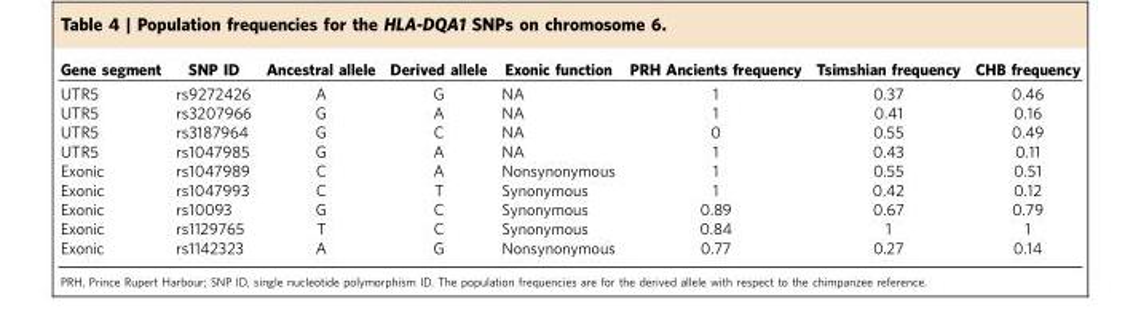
<table><thead><tr><td>Gene segment</td><td>SNP ID</td><td>Ancestral allele</td><td>Derived allele</td><td>Exonic function</td><td>PRH Ancients frequency</td><td>Tsimshian frequency</td><td>CHB frequency</td></tr></thead><tbody><tr><td>UTR5</td><td>rs9272426</td><td>A</td><td>G</td><td>NA</td><td>1</td><td>0.37</td><td>0.46</td></tr><tr><td>UTR5</td><td>rs3207966</td><td>G</td><td>A</td><td>NA</td><td>1</td><td>0.41</td><td>0.16</td></tr><tr><td>UTR5</td><td>rs3187964</td><td>G</td><td>C</td><td>NA</td><td>0</td><td>0.55</td><td>0.49</td></tr><tr><td>UTR5</td><td>rs1047985</td><td>G</td><td>A</td><td>NA</td><td>1</td><td>0.43</td><td>0.11</td></tr><tr><td>Exonic</td><td>rs1047989</td><td>C</td><td>A</td><td>Nonsynonymous</td><td>1</td><td>0.55</td><td>0.51</td></tr><tr><td>Exonic</td><td>rs1047993</td><td>C</td><td>T</td><td>Synonymous</td><td>1</td><td>0.42</td><td>0.12</td></tr><tr><td>Exonic</td><td>rs10093</td><td>G</td><td>C</td><td>Synonymous</td><td>0.89</td><td>0.67</td><td>0.79</td></tr><tr><td>Exonic</td><td>rs1129765</td><td>T</td><td>C</td><td>Synonymous</td><td>0.84</td><td>1</td><td>1</td></tr><tr><td>Exonic</td><td>rs1142323</td><td>A</td><td>G</td><td>Nonsynonymous</td><td>0.77</td><td>0.27</td><td>0.14</td></tr></tbody></table>